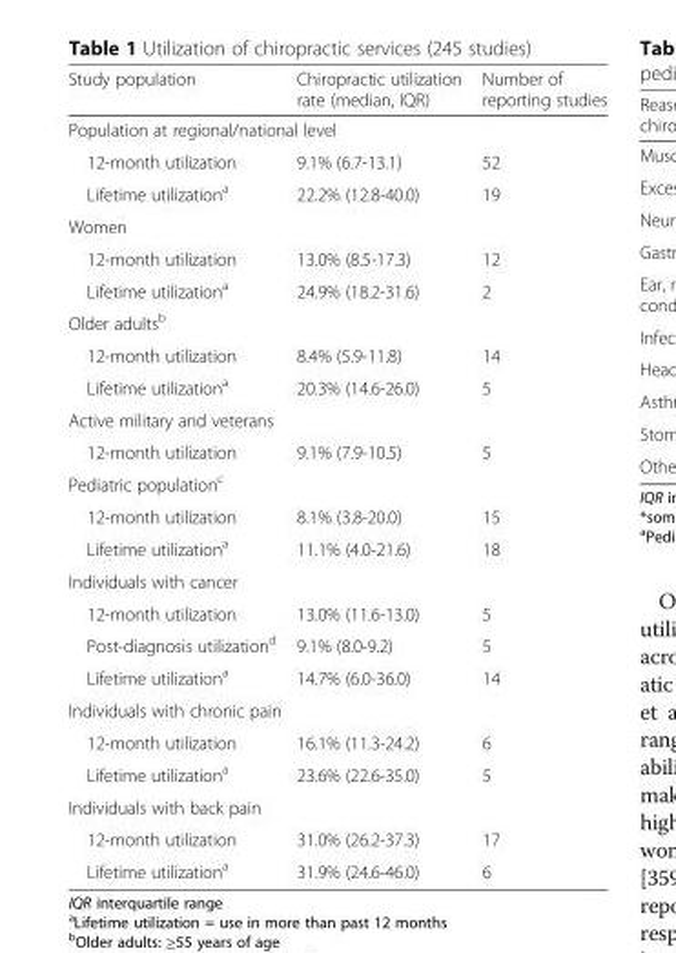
<table><thead><tr><td>Study population</td><td>Chiropractic utilization rate (median, IQR)</td><td>Number of reporting studies</td></tr></thead><tbody><tr><td colspan="3">Population at regional/national level</td></tr><tr><td>12-month utilization</td><td>9.1% (6.7-13.1)</td><td>52</td></tr><tr><td>Lifetime utilization<sup>a</sup></td><td>22.2% (12.8-40.0)</td><td>19</td></tr><tr><td colspan="3">Women</td></tr><tr><td>12-month utilization</td><td>13.0% (8.5-17.3)</td><td>12</td></tr><tr><td>Lifetime utilization<sup>a</sup></td><td>24.9% (18.2-31.6)</td><td>2</td></tr><tr><td colspan="3">Older adults<sup>b</sup></td></tr><tr><td>12-month utilization</td><td>8.4% (5.9-11.8)</td><td>14</td></tr><tr><td>Lifetime utilization<sup>a</sup></td><td>20.3% (14.6-26.0)</td><td>5</td></tr><tr><td colspan="3">Active military and veterans</td></tr><tr><td>12-month utilization</td><td>9.1% (7.9-10.5)</td><td>5</td></tr><tr><td colspan="3">Pediatric population<sup>c</sup></td></tr><tr><td>12-month utilization</td><td>8.1% (3.8-20.0)</td><td>15</td></tr><tr><td>Lifetime utilization<sup>a</sup></td><td>11.1% (4.0-21.6)</td><td>18</td></tr><tr><td colspan="3">Individuals with cancer</td></tr><tr><td>12-month utilization</td><td>13.0% (11.6-13.0)</td><td>5</td></tr><tr><td>Post-diagnosis utilization<sup>d</sup></td><td>9.1% (8.0-9.2)</td><td>5</td></tr><tr><td>Lifetime utilization<sup>a</sup></td><td>14.7% (6.0-36.0)</td><td>14</td></tr><tr><td colspan="3">Individuals with chronic pain</td></tr><tr><td>12-month utilization</td><td>16.1% (11.3-24.2)</td><td>6</td></tr><tr><td>Lifetime utilization<sup>a</sup></td><td>23.6% (22.6-35.0)</td><td>5</td></tr><tr><td colspan="3">Individuals with back pain</td></tr><tr><td>12-month utilization</td><td>31.0% (26.2-37.3)</td><td>17</td></tr><tr><td>Lifetime utilization<sup>a</sup></td><td>31.9% (24.6-46.0)</td><td>6</td></tr></tbody></table>